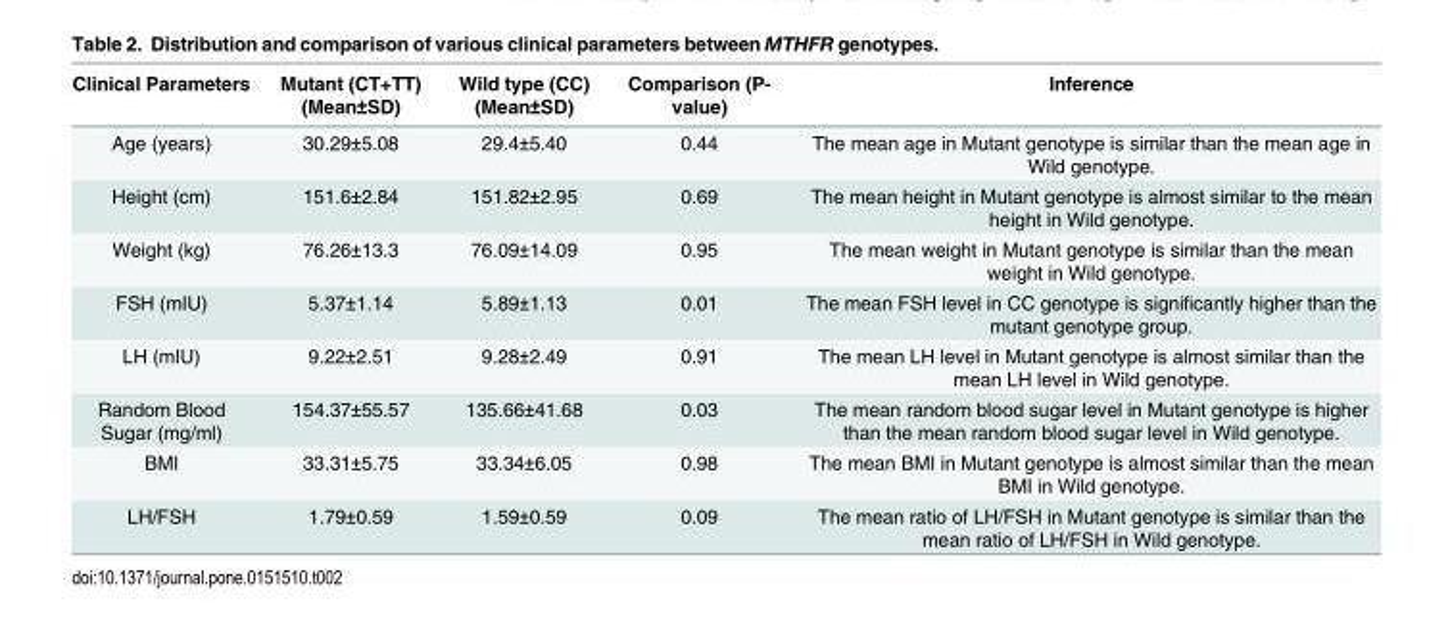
<table><thead><tr><td>Clinical Parameters</td><td>Mutant (CT+TT) (Mean±SD)</td><td>Wild type (CC) (Mean±SD)</td><td>Comparison (P- value)</td><td>Inference</td></tr></thead><tbody><tr><td>Age (years)</td><td>30.29±5.08</td><td>29.4±5.40</td><td>0.44</td><td>The mean age in Mutant genotype is similar than the mean age in Wild genotype.</td></tr><tr><td>Height (cm)</td><td>151.6±2.84</td><td>151.82±2.95</td><td>0.69</td><td>The mean height in Mutant genotype is almost similar to the mean height in Wild genotype.</td></tr><tr><td>Weight (kg)</td><td>76.26±13.3</td><td>76.09±14.09</td><td>0.95</td><td>The mean weight in Mutant genotype is similar than the mean weight in Wild genotype.</td></tr><tr><td>FSH (mIU)</td><td>5.37±1.14</td><td>5.89±1.13</td><td>0.01</td><td>The mean FSH level in CC genotype is significantly higher than the mutant genotype group.</td></tr><tr><td>LH (mIU)</td><td>9.22±2.51</td><td>9.28±2.49</td><td>0.91</td><td>The mean LH level in Mutant genotype is almost similar than the mean LH level in Wild genotype.</td></tr><tr><td>Random Blood Sugar (mg/ml)</td><td>154.37±55.57</td><td>135.66±41.68</td><td>0.03</td><td>The mean random blood sugar level in Mutant genotype is higher than the mean random blood sugar level in Wild genotype.</td></tr><tr><td>BMI</td><td>33.31±5.75</td><td>33.34±6.05</td><td>0.98</td><td>The mean BMI in Mutant genotype is almost similar than the mean BMI in Wild genotype.</td></tr><tr><td>LH/FSH</td><td>1.79±0.59</td><td>1.59±0.59</td><td>0.09</td><td>The mean ratio of LH/FSH in Mutant genotype is similar than the mean ratio of LH/FSH in Wild genotype.</td></tr></tbody></table>